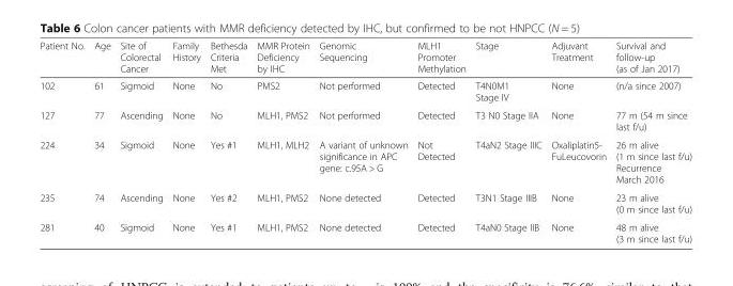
<table><thead><tr><td>Patient No.</td><td>Age</td><td>Site of Colorectal Cancer</td><td>Family History</td><td>Bethesda Criteria Met</td><td>MMR Protein Deficiency by IHC</td><td>Genomic Sequencing</td><td>MLH1 Promoter Methylation</td><td>Stage</td><td>Adjuvant Treatment</td><td>Survival and follow-up (as of Jan 2017)</td></tr></thead><tbody><tr><td>102</td><td>61</td><td>Sigmoid</td><td>None</td><td>No</td><td>PMS2</td><td>Not performed</td><td>Detected</td><td>T4N0M1 Stage IV</td><td>None</td><td>(n/a since 2007)</td></tr><tr><td>127</td><td>77</td><td>Ascending</td><td>None</td><td>No</td><td>MLH1, PMS2</td><td>Not performed</td><td>Detected</td><td>T3 N0 Stage IIA</td><td>None</td><td>77 m (54 m since last f/u)</td></tr><tr><td>224</td><td>34</td><td>Sigmoid</td><td>None</td><td>Yes #1</td><td>MLH1, MLH2</td><td>A variant of unknown significance in APC gene: c.95A &gt; G</td><td>Not Detected</td><td>T4aN2 Stage IIIC</td><td>Oxaliplatin5- FuLeucovorin</td><td>26 m alive (1 m since last f/u) Recurrence March 2016</td></tr><tr><td>235</td><td>74</td><td>Ascending</td><td>None</td><td>Yes #2</td><td>MLH1, PMS2</td><td>None detected</td><td>Detected</td><td>T3N1 Stage IIIB</td><td>None</td><td>23 m alive (0 m since last f/u)</td></tr><tr><td>281</td><td>40</td><td>Sigmoid</td><td>None</td><td>Yes #1</td><td>MLH1, PMS2</td><td>None detected</td><td>Detected</td><td>T4aN0 Stage IIB</td><td>None</td><td>48 m alive (3 m since last f/u)</td></tr></tbody></table>